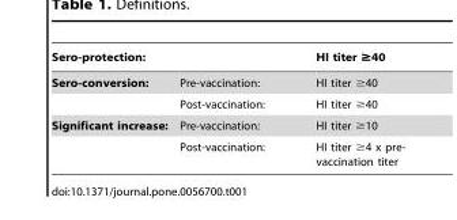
<table><thead><tr><td>Sero-protection:</td><td></td><td>HI titer ≥40</td></tr></thead><tbody><tr><td rowspan="2">Sero-conversion:</td><td>Pre-vaccination:</td><td>HI titer ≥40</td></tr><tr><td>Post-vaccination:</td><td>HI titer ≥40</td></tr><tr><td rowspan="2">Significant increase:</td><td>Pre-vaccination:</td><td>HI titer ≥10</td></tr><tr><td>Post-vaccination:</td><td>HI titer ≥4 x pre- vaccination titer</td></tr></tbody></table>